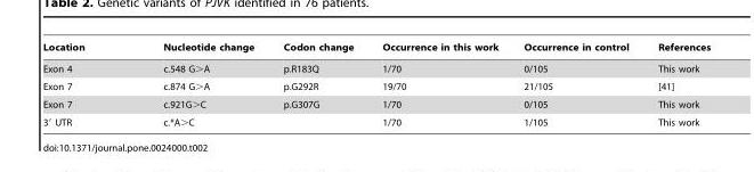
<table><thead><tr><td>Location</td><td>Nucleotide change</td><td>Codon change</td><td>Occurrence in this work</td><td>Occurrence in control</td><td>References</td></tr></thead><tbody><tr><td>Exon 4</td><td>c.548 G&gt;A</td><td>p.R183Q</td><td>1/70</td><td>0/105</td><td>This work</td></tr><tr><td>Exon 7</td><td>c.874 G&gt;A</td><td>p.G292R</td><td>19/70</td><td>21/105</td><td>[41]</td></tr><tr><td>Exon 7</td><td>c.921G&gt;C</td><td>p.G307G</td><td>1/70</td><td>0/105</td><td>This work</td></tr><tr><td>3′ UTR</td><td>c.*A&gt;C</td><td></td><td>1/70</td><td>1/105</td><td>This work</td></tr></tbody></table>